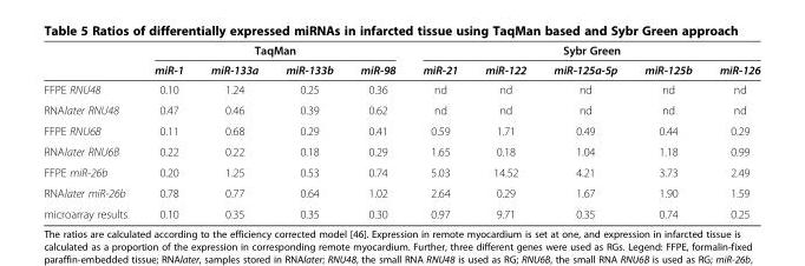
<table><thead><tr><td rowspan="2"></td><td colspan="4">TaqMan</td><td colspan="5">Sybr Green</td></tr><tr><td>miR-1</td><td>miR-133a</td><td>miR-133b</td><td>miR-98</td><td>miR-21</td><td>miR-122</td><td>miR-125a-5p</td><td>miR-125b</td><td>miR-126</td></tr></thead><tbody><tr><td>FFPE RNU48</td><td>0.10</td><td>1.24</td><td>0.25</td><td>0.36</td><td>nd</td><td>nd</td><td>nd</td><td>nd</td><td>nd</td></tr><tr><td>RNAlater RNU48</td><td>0.47</td><td>0.46</td><td>0.39</td><td>0.62</td><td>nd</td><td>nd</td><td>nd</td><td>nd</td><td>nd</td></tr><tr><td>FFPE RNU6B</td><td>0.11</td><td>0.68</td><td>0.29</td><td>0.41</td><td>0.59</td><td>1.71</td><td>0.49</td><td>0.44</td><td>0.29</td></tr><tr><td>RNAlater RNU6B</td><td>0.22</td><td>0.22</td><td>0.18</td><td>0.29</td><td>1.65</td><td>0.18</td><td>1.04</td><td>1.18</td><td>0.99</td></tr><tr><td>FFPE miR-26b</td><td>0.20</td><td>1.25</td><td>0.53</td><td>0.74</td><td>5.03</td><td>14.52</td><td>4.21</td><td>3.73</td><td>2.49</td></tr><tr><td>RNAlater miR-26b</td><td>0.78</td><td>0.77</td><td>0.64</td><td>1.02</td><td>2.64</td><td>0.29</td><td>1.67</td><td>1.90</td><td>1.59</td></tr><tr><td>microarray results</td><td>0.10</td><td>0.35</td><td>0.35</td><td>0.30</td><td>0.97</td><td>9.71</td><td>0.35</td><td>0.74</td><td>0.25</td></tr></tbody></table>